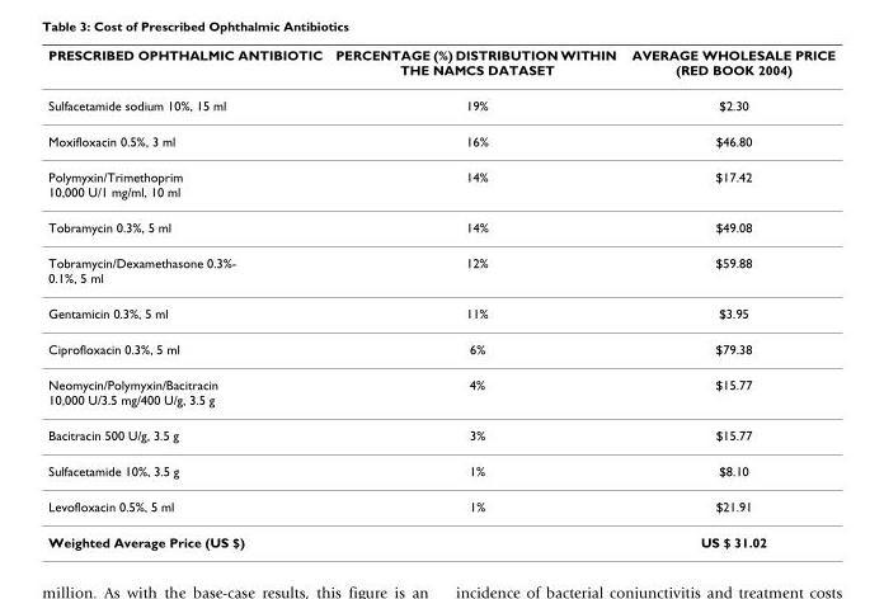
<table><thead><tr><td>PRESCRIBED OPHTHALMIC ANTIBIOTIC</td><td>PERCENTAGE (%) DISTRIBUTION WITHIN THE NAMCS DATASET</td><td>AVERAGE WHOLESALE PRICE (RED BOOK 2004)</td></tr></thead><tbody><tr><td>Sulfacetamide sodium 10%, 15 ml</td><td>19%</td><td>$2.30</td></tr><tr><td>Moxifloxacin 0.5%, 3 ml</td><td>16%</td><td>$46.80</td></tr><tr><td>Polymyxin/Trimethoprim 10,000 U/1 mg/ml, 10 ml</td><td>14%</td><td>$17.42</td></tr><tr><td>Tobramycin 0.3%, 5 ml</td><td>14%</td><td>$49.08</td></tr><tr><td>Tobramycin/Dexamethasone 0.3%- 0.1%, 5 ml</td><td>12%</td><td>$59.88</td></tr><tr><td>Gentamicin 0.3%, 5 ml</td><td>11%</td><td>$3.95</td></tr><tr><td>Ciprofloxacin 0.3%, 5 ml</td><td>6%</td><td>$79.38</td></tr><tr><td>Neomycin/Polymyxin/Bacitracin 10,000 U/3.5 mg/400 U/g, 3.5 g</td><td>4%</td><td>$15.77</td></tr><tr><td>Bacitracin 500 U/g, 3.5 g</td><td>3%</td><td>$15.77</td></tr><tr><td>Sulfacetamide 10%, 3.5 g</td><td>1%</td><td>$8.10</td></tr><tr><td>Levofloxacin 0.5%, 5 ml</td><td>1%</td><td>$21.91</td></tr><tr><td>Weighted Average Price (US $)</td><td></td><td>US $ 31.02</td></tr></tbody></table>